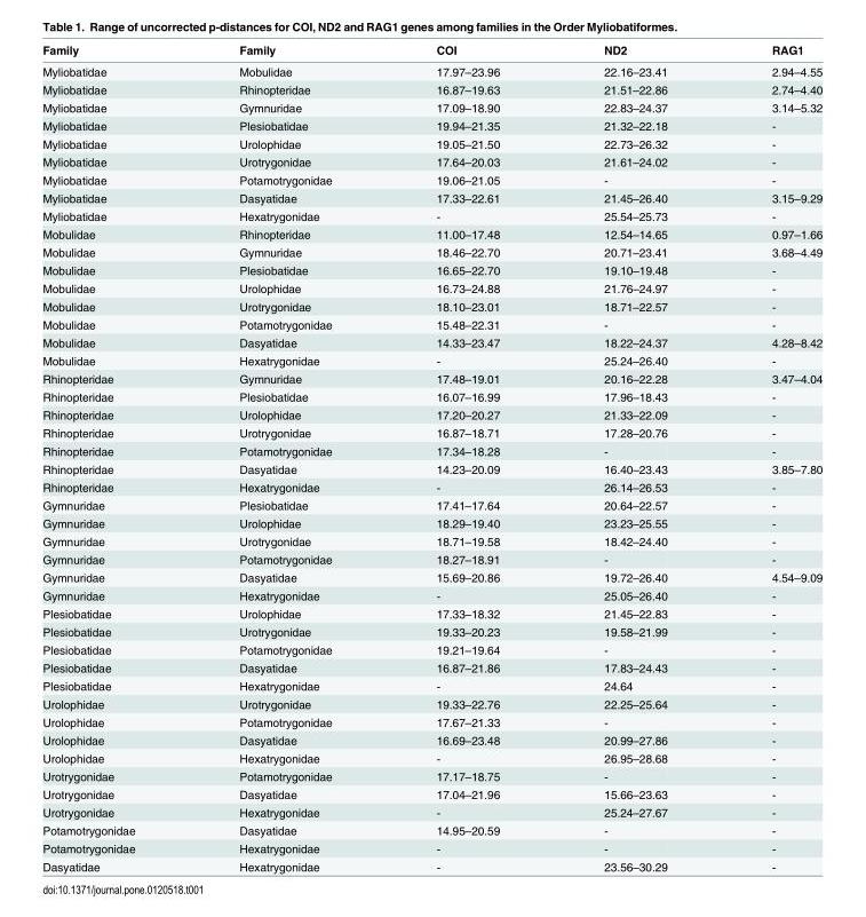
<table><thead><tr><td>Family</td><td>Family</td><td>COI</td><td>ND2</td><td>RAG1</td></tr></thead><tbody><tr><td>Myliobatidae</td><td>Mobulidae</td><td>17.97–23.96</td><td>22.16–23.41</td><td>2.94–4.55</td></tr><tr><td>Myliobatidae</td><td>Rhinopteridae</td><td>16.87–19.63</td><td>21.51–22.86</td><td>2.74–4.40</td></tr><tr><td>Myliobatidae</td><td>Gymnuridae</td><td>17.09–18.90</td><td>22.83–24.37</td><td>3.14–5.32</td></tr><tr><td>Myliobatidae</td><td>Plesiobatidae</td><td>19.94–21.35</td><td>21.32–22.18</td><td>-</td></tr><tr><td>Myliobatidae</td><td>Urolophidae</td><td>19.05–21.50</td><td>22.73–26.32</td><td>-</td></tr><tr><td>Myliobatidae</td><td>Urotrygonidae</td><td>17.64–20.03</td><td>21.61–24.02</td><td>-</td></tr><tr><td>Myliobatidae</td><td>Potamotrygonidae</td><td>19.06–21.05</td><td>-</td><td>-</td></tr><tr><td>Myliobatidae</td><td>Dasyatidae</td><td>17.33–22.61</td><td>21.45–26.40</td><td>3.15–9.29</td></tr><tr><td>Myliobatidae</td><td>Hexatrygonidae</td><td>-</td><td>25.54–25.73</td><td>-</td></tr><tr><td>Mobulidae</td><td>Rhinopteridae</td><td>11.00–17.48</td><td>12.54–14.65</td><td>0.97–1.66</td></tr><tr><td>Mobulidae</td><td>Gymnuridae</td><td>18.46–22.70</td><td>20.71–23.41</td><td>3.68–4.49</td></tr><tr><td>Mobulidae</td><td>Plesiobatidae</td><td>16.65–22.70</td><td>19.10–19.48</td><td>-</td></tr><tr><td>Mobulidae</td><td>Urolophidae</td><td>16.73–24.88</td><td>21.76–24.97</td><td>-</td></tr><tr><td>Mobulidae</td><td>Urotrygonidae</td><td>18.10–23.01</td><td>18.71–22.57</td><td>-</td></tr><tr><td>Mobulidae</td><td>Potamotrygonidae</td><td>15.48–22.31</td><td>-</td><td>-</td></tr><tr><td>Mobulidae</td><td>Dasyatidae</td><td>14.33–23.47</td><td>18.22–24.37</td><td>4.28–8.42</td></tr><tr><td>Mobulidae</td><td>Hexatrygonidae</td><td>-</td><td>25.24–26.40</td><td>-</td></tr><tr><td>Rhinopteridae</td><td>Gymnuridae</td><td>17.48–19.01</td><td>20.16–22.28</td><td>3.47–4.04</td></tr><tr><td>Rhinopteridae</td><td>Plesiobatidae</td><td>16.07–16.99</td><td>17.96–18.43</td><td>-</td></tr><tr><td>Rhinopteridae</td><td>Urolophidae</td><td>17.20–20.27</td><td>21.33–22.09</td><td>-</td></tr><tr><td>Rhinopteridae</td><td>Urotrygonidae</td><td>16.87–18.71</td><td>17.28–20.76</td><td>-</td></tr><tr><td>Rhinopteridae</td><td>Potamotrygonidae</td><td>17.34–18.28</td><td>-</td><td>-</td></tr><tr><td>Rhinopteridae</td><td>Dasyatidae</td><td>14.23–20.09</td><td>16.40–23.43</td><td>3.85–7.80</td></tr><tr><td>Rhinopteridae</td><td>Hexatrygonidae</td><td>-</td><td>26.14–26.53</td><td>-</td></tr><tr><td>Gymnuridae</td><td>Plesiobatidae</td><td>17.41–17.64</td><td>20.64–22.57</td><td>-</td></tr><tr><td>Gymnuridae</td><td>Urolophidae</td><td>18.29–19.40</td><td>23.23–25.55</td><td>-</td></tr><tr><td>Gymnuridae</td><td>Urotrygonidae</td><td>18.71–19.58</td><td>18.42–24.40</td><td>-</td></tr><tr><td>Gymnuridae</td><td>Potamotrygonidae</td><td>18.27–18.91</td><td>-</td><td>-</td></tr><tr><td>Gymnuridae</td><td>Dasyatidae</td><td>15.69–20.86</td><td>19.72–26.40</td><td>4.54–9.09</td></tr><tr><td>Gymnuridae</td><td>Hexatrygonidae</td><td>-</td><td>25.05–26.40</td><td>-</td></tr><tr><td>Plesiobatidae</td><td>Urolophidae</td><td>17.33–18.32</td><td>21.45–22.83</td><td>-</td></tr><tr><td>Plesiobatidae</td><td>Urotrygonidae</td><td>19.33–20.23</td><td>19.58–21.99</td><td>-</td></tr><tr><td>Plesiobatidae</td><td>Potamotrygonidae</td><td>19.21–19.64</td><td>-</td><td>-</td></tr><tr><td>Plesiobatidae</td><td>Dasyatidae</td><td>16.87–21.86</td><td>17.83–24.43</td><td>-</td></tr><tr><td>Plesiobatidae</td><td>Hexatrygonidae</td><td>-</td><td>24.64</td><td>-</td></tr><tr><td>Urolophidae</td><td>Urotrygonidae</td><td>19.33–22.76</td><td>22.25–25.64</td><td>-</td></tr><tr><td>Urolophidae</td><td>Potamotrygonidae</td><td>17.67–21.33</td><td>-</td><td>-</td></tr><tr><td>Urolophidae</td><td>Dasyatidae</td><td>16.69–23.48</td><td>20.99–27.86</td><td>-</td></tr><tr><td>Urolophidae</td><td>Hexatrygonidae</td><td>-</td><td>26.95–28.68</td><td>-</td></tr><tr><td>Urotrygonidae</td><td>Potamotrygonidae</td><td>17.17–18.75</td><td>-</td><td>-</td></tr><tr><td>Urotrygonidae</td><td>Dasyatidae</td><td>17.04–21.96</td><td>15.66–23.63</td><td>-</td></tr><tr><td>Urotrygonidae</td><td>Hexatrygonidae</td><td>-</td><td>25.24–27.67</td><td>-</td></tr><tr><td>Potamotrygonidae</td><td>Dasyatidae</td><td>14.95–20.59</td><td>-</td><td>-</td></tr><tr><td>Potamotrygonidae</td><td>Hexatrygonidae</td><td>-</td><td>-</td><td>-</td></tr><tr><td>Dasyatidae</td><td>Hexatrygonidae</td><td>-</td><td>23.56–30.29</td><td>-</td></tr></tbody></table>